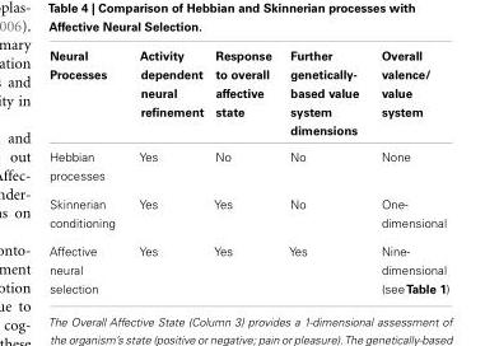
<table><thead><tr><td>Neural Processes</td><td>Activity dependent neural refinement</td><td>Response to overall affective state</td><td>Further genetically- based value system dimensions</td><td>Overall valence/ value system</td></tr></thead><tbody><tr><td>Hebbian processes</td><td>Yes</td><td>No</td><td>No</td><td>None</td></tr><tr><td>Skinnerian conditioning</td><td>Yes</td><td>Yes</td><td>No</td><td>One- dimensional</td></tr><tr><td>Affective neural selection</td><td>Yes</td><td>Yes</td><td>Yes</td><td>Nine- dimensional (seeTable 1)</td></tr></tbody></table>